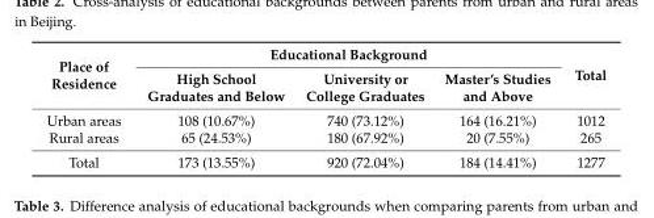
<table><thead><tr><td rowspan="2">Place of Residence</td><td colspan="3">Educational Background</td><td rowspan="2">Total</td></tr><tr><td>High School Graduates and Below</td><td>University or College Graduates</td><td>Master’s Studies and Above</td></tr></thead><tbody><tr><td>Urban areas</td><td>108 (10.67%)</td><td>740 (73.12%)</td><td>164 (16.21%)</td><td>1012</td></tr><tr><td>Rural areas</td><td>65 (24.53%)</td><td>180 (67.92%)</td><td>20 (7.55%)</td><td>265</td></tr><tr><td>Total</td><td>173 (13.55%)</td><td>920 (72.04%)</td><td>184 (14.41%)</td><td>1277</td></tr></tbody></table>